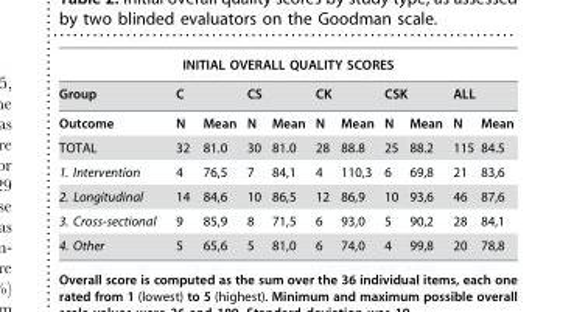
<table><thead><tr><td colspan="11">INITIAL OVERALL QUALITY SCORES</td></tr><tr><td rowspan="2">Group Outcome</td><td colspan="2">C</td><td colspan="2">CS</td><td colspan="2">CK</td><td colspan="2">CSK</td><td colspan="2">ALL</td></tr><tr><td>N</td><td>Mean</td><td>N</td><td>Mean</td><td>N</td><td>Mean</td><td>N</td><td>Mean</td><td>N</td><td>Mean</td></tr></thead><tbody><tr><td>TOTAL</td><td>32</td><td>81.0</td><td>30</td><td>81.0</td><td>28</td><td>88.8</td><td>25</td><td>88.2</td><td>115</td><td>84.5</td></tr><tr><td>1. Intervention</td><td>4</td><td>76,5</td><td>7</td><td>84,1</td><td>4</td><td>110,3</td><td>6</td><td>69,8</td><td>21</td><td>83,6</td></tr><tr><td>2. Longitudinal</td><td>14</td><td>84,6</td><td>10</td><td>86,5</td><td>12</td><td>86,9</td><td>10</td><td>93,6</td><td>46</td><td>87,6</td></tr><tr><td>3. Cross-sectional</td><td>9</td><td>85,9</td><td>8</td><td>71,5</td><td>6</td><td>93,0</td><td>5</td><td>90,2</td><td>28</td><td>84,1</td></tr><tr><td>4. Other</td><td>5</td><td>65,6</td><td>5</td><td>81,0</td><td>6</td><td>74,0</td><td>4</td><td>99,8</td><td>20</td><td>78,8</td></tr></tbody></table>